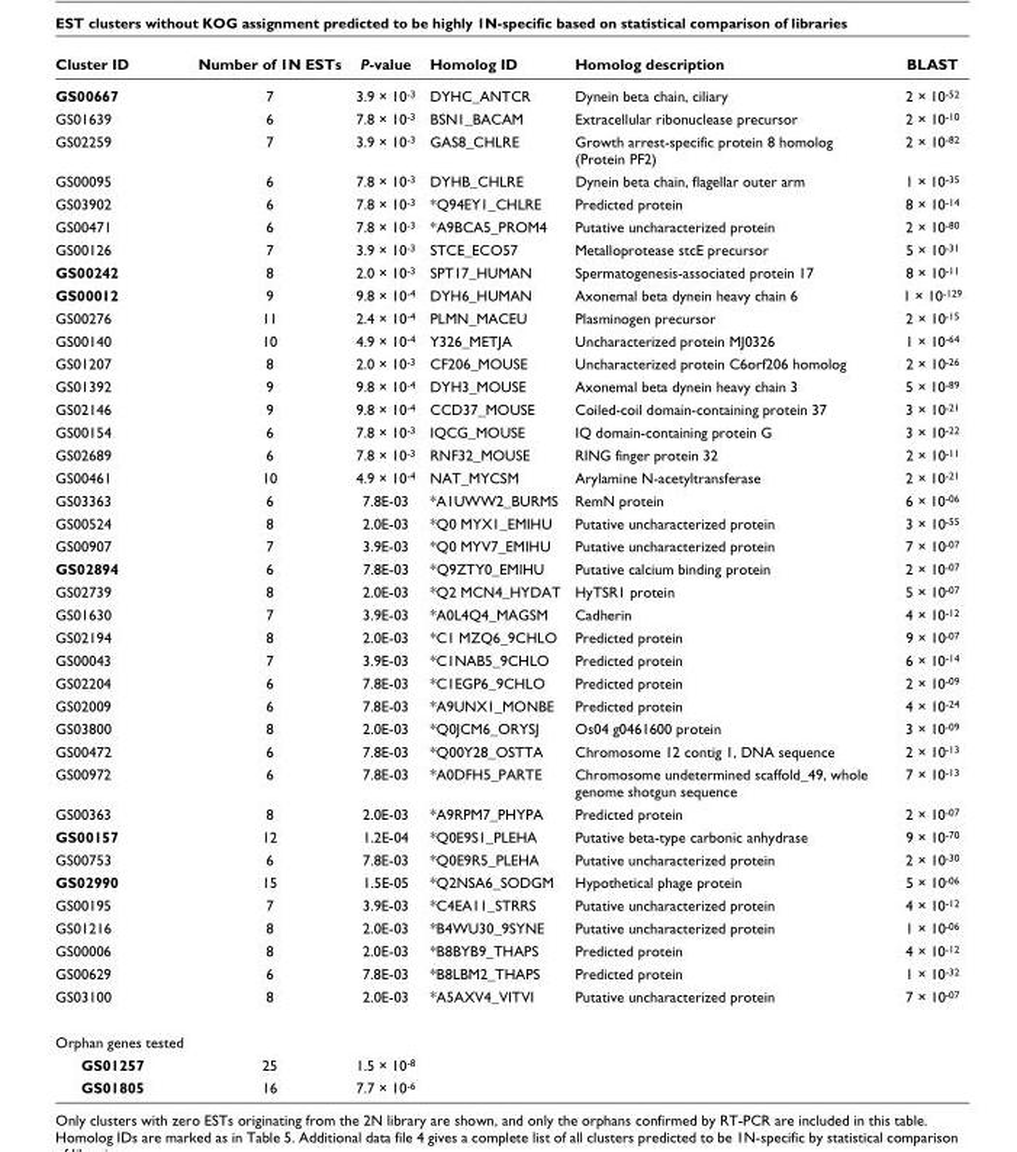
<table><thead><tr><td>Cluster ID</td><td>Number of 1N ESTs</td><td>P-value</td><td>Homolog ID</td><td>Homolog description</td><td>BLAST</td></tr></thead><tbody><tr><td>GS00667</td><td>7</td><td>3.9 × 10<sup>-3</sup></td><td>DYHC_ANTCR</td><td>Dynein beta chain, ciliary</td><td>2 × 10<sup>-52</sup></td></tr><tr><td>GS01639</td><td>6</td><td>7.8 × 10<sup>-3</sup></td><td>BSN1_BACAM</td><td>Extracellular ribonuclease precursor</td><td>2 × 10<sup>-10</sup></td></tr><tr><td>GS02259</td><td>7</td><td>3.9 × 10<sup>-3</sup></td><td>GAS8_CHLRE</td><td>Growth arrest-specific protein 8 homolog (Protein PF2)</td><td>2 × 10<sup>-82</sup></td></tr><tr><td>GS00095</td><td>6</td><td>7.8 × 10<sup>-3</sup></td><td>DYHB_CHLRE</td><td>Dynein beta chain, flagellar outer arm</td><td>1 × 10<sup>-35</sup></td></tr><tr><td>GS03902</td><td>6</td><td>7.8 × 10<sup>-3</sup></td><td>*Q94EY1_CHLRE</td><td>Predicted protein</td><td>8 × 10<sup>-14</sup></td></tr><tr><td>GS00471</td><td>6</td><td>7.8 × 10<sup>-3</sup></td><td>*A9BCA5_PROM4</td><td>Putative uncharacterized protein</td><td>2 × 10<sup>-80</sup></td></tr><tr><td>GS00126</td><td>7</td><td>3.9 × 10<sup>-3</sup></td><td>STCE_ECO57</td><td>Metalloprotease stcE precursor</td><td>5 × 10<sup>-31</sup></td></tr><tr><td>GS00242</td><td>8</td><td>2.0 × 10<sup>-3</sup></td><td>SPT17_HUMAN</td><td>Spermatogenesis-associated protein 17</td><td>8 × 10<sup>-11</sup></td></tr><tr><td>GS00012</td><td>9</td><td>9.8 × 10<sup>-4</sup></td><td>DYH6_HUMAN</td><td>Axonemal beta dynein heavy chain 6</td><td>1 × 10<sup>-129</sup></td></tr><tr><td>GS00276</td><td>11</td><td>2.4 × 10<sup>-4</sup></td><td>PLMN_MACEU</td><td>Plasminogen precursor</td><td>2 × 10<sup>-15</sup></td></tr><tr><td>GS00140</td><td>10</td><td>4.9 × 10<sup>-4</sup></td><td>Y326_METJA</td><td>Uncharacterized protein MJ0326</td><td>1 × 10<sup>-64</sup></td></tr><tr><td>GS01207</td><td>8</td><td>2.0 × 10<sup>-3</sup></td><td>CF206_MOUSE</td><td>Uncharacterized protein C6orf206 homolog</td><td>2 × 10<sup>-26</sup></td></tr><tr><td>GS01392</td><td>9</td><td>9.8 × 10<sup>-4</sup></td><td>DYH3_MOUSE</td><td>Axonemal beta dynein heavy chain 3</td><td>5 × 10<sup>-89</sup></td></tr><tr><td>GS02146</td><td>9</td><td>9.8 × 10<sup>-4</sup></td><td>CCD37_MOUSE</td><td>Coiled-coil domain-containing protein 37</td><td>3 × 10<sup>-21</sup></td></tr><tr><td>GS00154</td><td>6</td><td>7.8 × 10<sup>-3</sup></td><td>IQCG_MOUSE</td><td>IQ domain-containing protein G</td><td>3 × 10<sup>-22</sup></td></tr><tr><td>GS02689</td><td>6</td><td>7.8 × 10<sup>-3</sup></td><td>RNF32_MOUSE</td><td>RING finger protein 32</td><td>2 × 10<sup>-11</sup></td></tr><tr><td>GS00461</td><td>10</td><td>4.9 × 10<sup>-4</sup></td><td>NAT_MYCSM</td><td>Arylamine N-acetyltransferase</td><td>2 × 10<sup>-21</sup></td></tr><tr><td>GS03363</td><td>6</td><td>7.8E-03</td><td>*A1UWW2_BURMS</td><td>RemN protein</td><td>6 × 10<sup>-06</sup></td></tr><tr><td>GS00524</td><td>8</td><td>2.0E-03</td><td>*Q0 MYX1_EMIHU</td><td>Putative uncharacterized protein</td><td>3 × 10<sup>-55</sup></td></tr><tr><td>GS00907</td><td>7</td><td>3.9E-03</td><td>*Q0 MYV7_EMIHU</td><td>Putative uncharacterized protein</td><td>7 × 10<sup>-07</sup></td></tr><tr><td>GS02894</td><td>6</td><td>7.8E-03</td><td>*Q9ZTY0_EMIHU</td><td>Putative calcium binding protein</td><td>2 × 10<sup>-07</sup></td></tr><tr><td>GS02739</td><td>8</td><td>2.0E-03</td><td>*Q2 MCN4_HYDAT</td><td>HyTSR1 protein</td><td>5 × 10<sup>-07</sup></td></tr><tr><td>GS01630</td><td>7</td><td>3.9E-03</td><td>*A0L4Q4_MAGSM</td><td>Cadherin</td><td>4 × 10<sup>-12</sup></td></tr><tr><td>GS02194</td><td>8</td><td>2.0E-03</td><td>*C1 MZQ6_9CHLO</td><td>Predicted protein</td><td>9 × 10<sup>-07</sup></td></tr><tr><td>GS00043</td><td>7</td><td>3.9E-03</td><td>*C1NAB5_9CHLO</td><td>Predicted protein</td><td>6 × 10<sup>-14</sup></td></tr><tr><td>GS02204</td><td>6</td><td>7.8E-03</td><td>*C1EGP6_9CHLO</td><td>Predicted protein</td><td>2 × 10<sup>-09</sup></td></tr><tr><td>GS02009</td><td>6</td><td>7.8E-03</td><td>*A9UNX1_MONBE</td><td>Predicted protein</td><td>4 × 10<sup>-24</sup></td></tr><tr><td>GS03800</td><td>8</td><td>2.0E-03</td><td>*Q0JCM6_ORYSJ</td><td>Os04 g0461600 protein</td><td>3 × 10<sup>-09</sup></td></tr><tr><td>GS00472</td><td>6</td><td>7.8E-03</td><td>*Q00Y28_OSTTA</td><td>Chromosome 12 contig 1, DNA sequence</td><td>2 × 10<sup>-13</sup></td></tr><tr><td>GS00972</td><td>6</td><td>7.8E-03</td><td>*A0DFH5_PARTE</td><td>Chromosome undetermined scaffold_49, whole genome shotgun sequence</td><td>7 × 10<sup>-13</sup></td></tr><tr><td>GS00363</td><td>8</td><td>2.0E-03</td><td>*A9RPM7_PHYPA</td><td>Predicted protein</td><td>2 × 10<sup>-07</sup></td></tr><tr><td>GS00157</td><td>12</td><td>1.2E-04</td><td>*Q0E9S1_PLEHA</td><td>Putative beta-type carbonic anhydrase</td><td>9 × 10<sup>-70</sup></td></tr><tr><td>GS00753</td><td>6</td><td>7.8E-03</td><td>*Q0E9R5_PLEHA</td><td>Putative uncharacterized protein</td><td>2 × 10<sup>-30</sup></td></tr><tr><td>GS02990</td><td>15</td><td>1.5E-05</td><td>*Q2NSA6_SODGM</td><td>Hypothetical phage protein</td><td>5 × 10<sup>-06</sup></td></tr><tr><td>GS00195</td><td>7</td><td>3.9E-03</td><td>*C4EA11_STRRS</td><td>Putative uncharacterized protein</td><td>4 × 10<sup>-12</sup></td></tr><tr><td>GS01216</td><td>8</td><td>2.0E-03</td><td>*B4WU30_9SYNE</td><td>Putative uncharacterized protein</td><td>1 × 10<sup>-06</sup></td></tr><tr><td>GS00006</td><td>8</td><td>2.0E-03</td><td>*B8BYB9_THAPS</td><td>Predicted protein</td><td>4 × 10<sup>-12</sup></td></tr><tr><td>GS00629</td><td>6</td><td>7.8E-03</td><td>*B8LBM2_THAPS</td><td>Predicted protein</td><td>1 × 10<sup>-32</sup></td></tr><tr><td>GS03100</td><td>8</td><td>2.0E-03</td><td>*A5AXV4_VITVI</td><td>Putative uncharacterized protein</td><td>7 × 10<sup>-07</sup></td></tr><tr><td colspan="6">Orphan genes tested</td></tr><tr><td>GS01257</td><td>25</td><td>1.5 × 10<sup>-8</sup></td><td></td><td></td><td></td></tr><tr><td>GS01805</td><td>16</td><td>7.7 × 10<sup>-6</sup></td><td></td><td></td><td></td></tr></tbody></table>